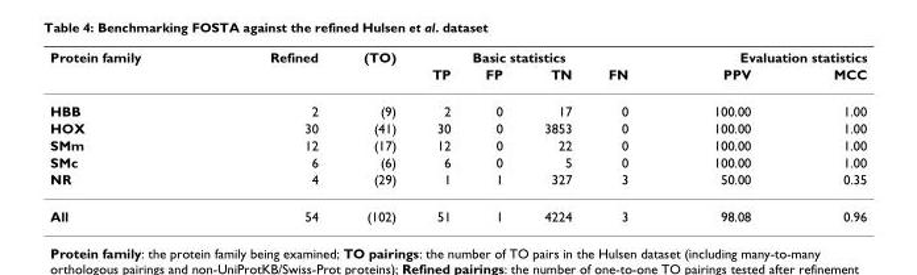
<table><thead><tr><td rowspan="2">Protein family</td><td rowspan="2">Refined</td><td rowspan="2">(TO)</td><td colspan="4">Basic statistics</td><td colspan="2">Evaluation statistics</td></tr><tr><td>TP</td><td>FP</td><td>TN</td><td>FN</td><td>PPV</td><td>MCC</td></tr></thead><tbody><tr><td>HBB</td><td>2</td><td>(9)</td><td>2</td><td>0</td><td>17</td><td>0</td><td>100.00</td><td>1.00</td></tr><tr><td>HOX</td><td>30</td><td>(41)</td><td>30</td><td>0</td><td>3853</td><td>0</td><td>100.00</td><td>1.00</td></tr><tr><td>SMm</td><td>12</td><td>(17)</td><td>12</td><td>0</td><td>22</td><td>0</td><td>100.00</td><td>1.00</td></tr><tr><td>SMc</td><td>6</td><td>(6)</td><td>6</td><td>0</td><td>5</td><td>0</td><td>100.00</td><td>1.00</td></tr><tr><td>NR</td><td>4</td><td>(29)</td><td>1</td><td>1</td><td>327</td><td>3</td><td>50.00</td><td>0.35</td></tr><tr><td>All</td><td>54</td><td>(102)</td><td>51</td><td>1</td><td>4224</td><td>3</td><td>98.08</td><td>0.96</td></tr></tbody></table>